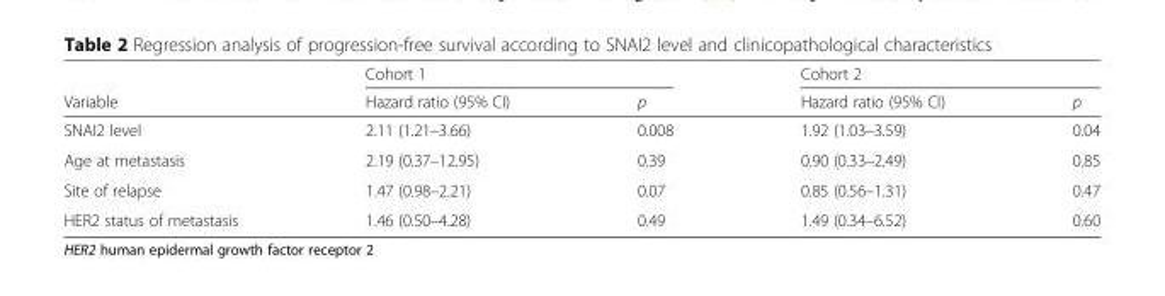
<table><thead><tr><td rowspan="2">Variable</td><td colspan="2">Cohort 1</td><td colspan="2">Cohort 2</td></tr><tr><td>Hazard ratio (95% CI)</td><td>p</td><td>Hazard ratio (95% CI)</td><td>p</td></tr></thead><tbody><tr><td>SNAI2 level</td><td>2.11 (1.21–3.66)</td><td>0.008</td><td>1.92 (1.03–3.59)</td><td>0.04</td></tr><tr><td>Age at metastasis</td><td>2.19 (0.37–12.95)</td><td>0.39</td><td>0.90 (0.33–2.49)</td><td>0.85</td></tr><tr><td>Site of relapse</td><td>1.47 (0.98–2.21)</td><td>0.07</td><td>0.85 (0.56–1.31)</td><td>0.47</td></tr><tr><td>HER2 status of metastasis</td><td>1.46 (0.50–4.28)</td><td>0.49</td><td>1.49 (0.34–6.52)</td><td>0.60</td></tr></tbody></table>